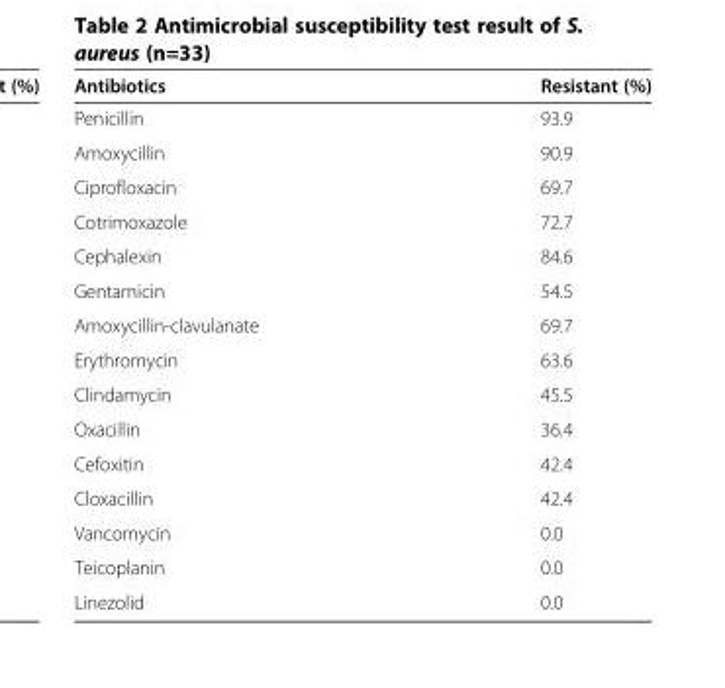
<table><thead><tr><td>Antibiotics</td><td>Resistant (%)</td></tr></thead><tbody><tr><td>Penicillin</td><td>93.9</td></tr><tr><td>Amoxycillin</td><td>90.9</td></tr><tr><td>Ciprofloxacin</td><td>69.7</td></tr><tr><td>Cotrimoxazole</td><td>72.7</td></tr><tr><td>Cephalexin</td><td>84.6</td></tr><tr><td>Gentamicin</td><td>54.5</td></tr><tr><td>Amoxycillin-clavulanate</td><td>69.7</td></tr><tr><td>Erythromycin</td><td>63.6</td></tr><tr><td>Clindamycin</td><td>45.5</td></tr><tr><td>Oxacillin</td><td>36.4</td></tr><tr><td>Cefoxitin</td><td>42.4</td></tr><tr><td>Cloxacillin</td><td>42.4</td></tr><tr><td>Vancomycin</td><td>0.0</td></tr><tr><td>Teicoplanin</td><td>0.0</td></tr><tr><td>Linezolid</td><td>0.0</td></tr></tbody></table>